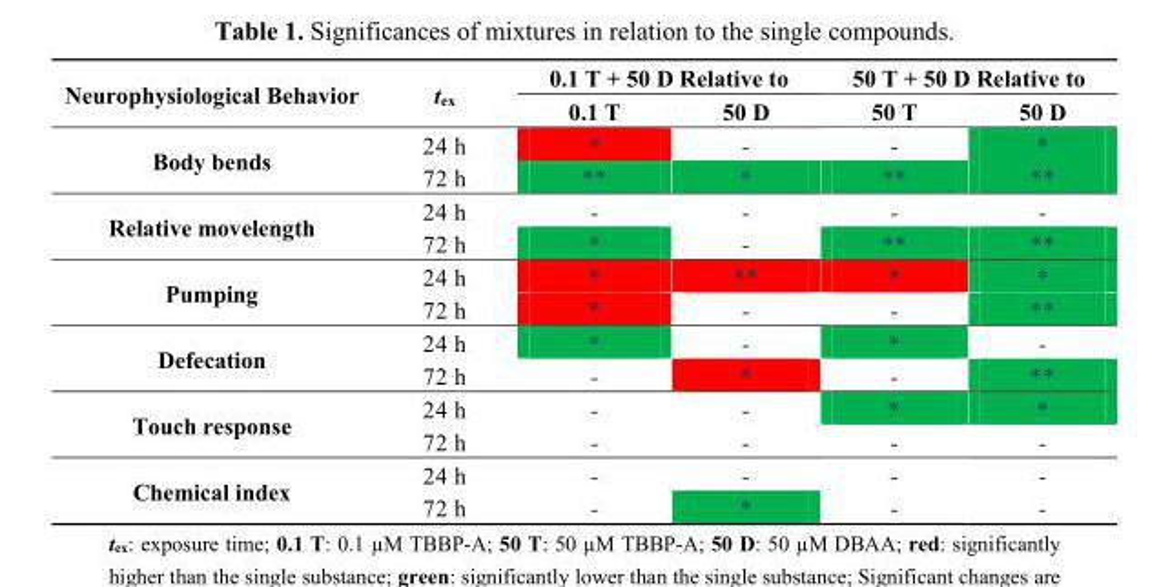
<table><thead><tr><td rowspan="2">Neurophysiological Behavior</td><td rowspan="2">t<sub>ex</sub></td><td colspan="2">0.1 T + 50 D Relative to</td><td colspan="2">50 T + 50 D Relative to</td></tr><tr><td>0.1 T</td><td>50 D</td><td>50 T</td><td>50 D</td></tr></thead><tbody><tr><td rowspan="2">Body bends</td><td>24 h</td><td>*</td><td>-</td><td>-</td><td>*</td></tr><tr><td>72 h</td><td>**</td><td>*</td><td>**</td><td>**</td></tr><tr><td rowspan="2">Relative movelength</td><td>24 h</td><td>-</td><td>-</td><td>-</td><td>-</td></tr><tr><td>72 h</td><td>*</td><td>-</td><td>**</td><td>**</td></tr><tr><td rowspan="2">Pumping</td><td>24 h</td><td>*</td><td>**</td><td>*</td><td>*</td></tr><tr><td>72 h</td><td>*</td><td>-</td><td>-</td><td>**</td></tr><tr><td rowspan="2">Defecation</td><td>24 h</td><td>*</td><td>-</td><td>*</td><td>-</td></tr><tr><td>72 h</td><td>-</td><td>*</td><td>-</td><td>**</td></tr><tr><td rowspan="2">Touch response</td><td>24 h</td><td>-</td><td>-</td><td>*</td><td>*</td></tr><tr><td>72 h</td><td>-</td><td>-</td><td>-</td><td>-</td></tr><tr><td rowspan="2">Chemical index</td><td>24 h</td><td>-</td><td>-</td><td>-</td><td>-</td></tr><tr><td>72 h</td><td>-</td><td>*</td><td>-</td><td>-</td></tr></tbody></table>